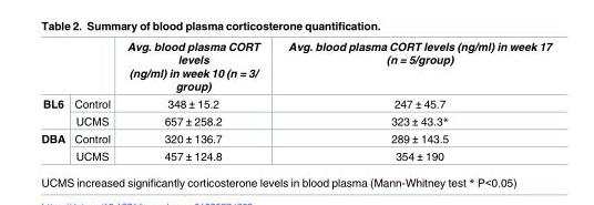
<table><thead><tr><td></td><td></td><td>Avg. blood plasma CORT levels (ng/ml) in week 10 (n = 3/ group)</td><td>Avg. blood plasma CORT levels (ng/ml) in week 17 (n = 5/group)</td></tr></thead><tbody><tr><td rowspan="2">BL6</td><td>Control</td><td>348 ± 15.2</td><td>247 ± 45.7</td></tr><tr><td>UCMS</td><td>657 ± 258.2</td><td>323 ± 43.3*</td></tr><tr><td rowspan="2">DBA</td><td>Control</td><td>320 ± 136.7</td><td>289 ± 143.5</td></tr><tr><td>UCMS</td><td>457 ± 124.8</td><td>354 ± 190</td></tr></tbody></table>